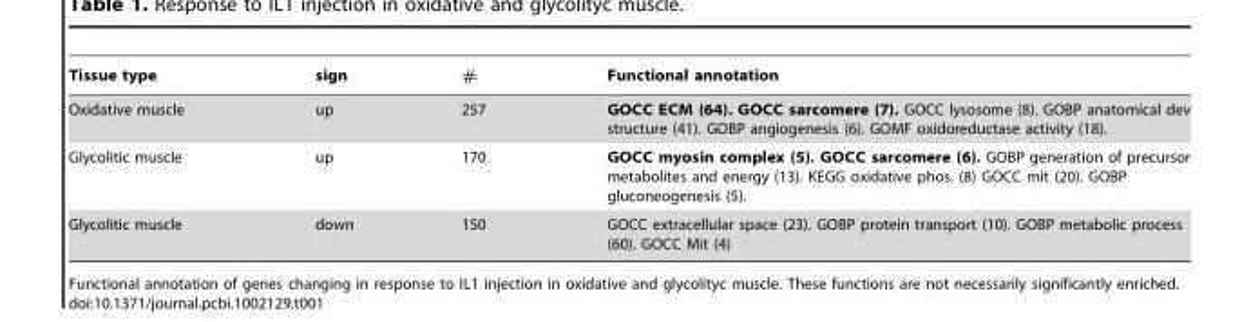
<table><thead><tr><td>Tissue type</td><td>sign</td><td>#</td><td>Functional annotation</td></tr></thead><tbody><tr><td>Oxidative muscle</td><td>up</td><td>257</td><td>GOCC ECM (64). GOCC sarcomere (7). GOCC lysosome (8). GOBP anatomical dev structure (41). GOBP angiogenesis (6). GOMF oxidoreductase activity (18).</td></tr><tr><td>Glycolitic muscle</td><td>up</td><td>170</td><td>GOCC myosin complex (5). GOCC sarcomere (6). GOBP generation of precursor metabolites and energy (13). KEGG oxidative phos. (8) GOCC mit (20). GOBP gluconeogenesis (5).</td></tr><tr><td>Glycolitic muscle</td><td>down</td><td>150</td><td>GOCC extracellular space (23). GOBP protein transport (10). GOBP metabolic process (60). GOCC Mit (4)</td></tr></tbody></table>